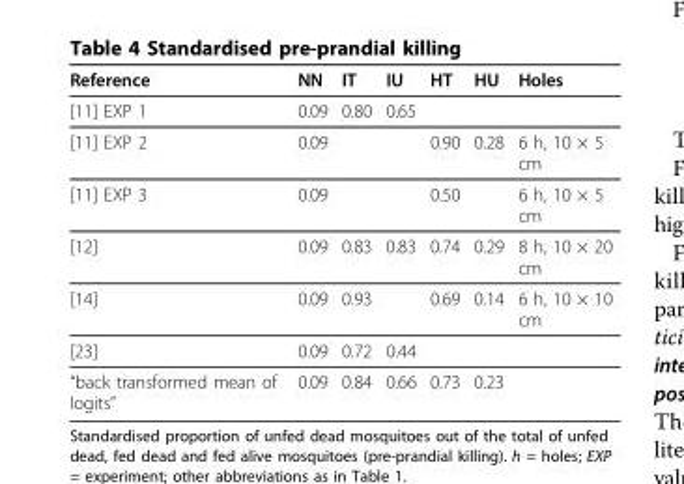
<table><thead><tr><td>Reference</td><td>NN</td><td>IT</td><td>IU</td><td>HT</td><td>HU</td><td>Holes</td></tr></thead><tbody><tr><td>[11] EXP 1</td><td>0.09</td><td>0.80</td><td>0.65</td><td></td><td></td><td></td></tr><tr><td>[11] EXP 2</td><td>0.09</td><td></td><td></td><td>0.90</td><td>0.28</td><td>6 h, 10 × 5 cm</td></tr><tr><td>[11] EXP 3</td><td>0.09</td><td></td><td></td><td>0.50</td><td></td><td>6 h, 10 × 5 cm</td></tr><tr><td>[12]</td><td>0.09</td><td>0.83</td><td>0.83</td><td>0.74</td><td>0.29</td><td>8 h, 10 × 20 cm</td></tr><tr><td>[14]</td><td>0.09</td><td>0.93</td><td></td><td>0.69</td><td>0.14</td><td>6 h, 10 × 10 cm</td></tr><tr><td>[23]</td><td>0.09</td><td>0.72</td><td>0.44</td><td></td><td></td><td></td></tr><tr><td>“back transformed mean of logits”</td><td>0.09</td><td>0.84</td><td>0.66</td><td>0.73</td><td>0.23</td><td></td></tr></tbody></table>